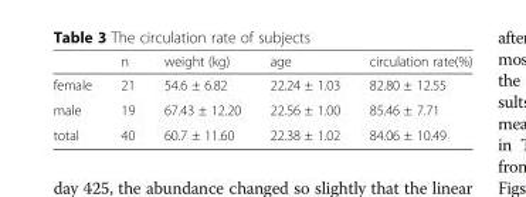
<table><thead><tr><td></td><td>n</td><td>weight (kg)</td><td>age</td><td>circulation rate(%)</td></tr></thead><tbody><tr><td>female</td><td>21</td><td>54.6 ± 6.82</td><td>22.24 ± 1.03</td><td>82.80 ± 12.55</td></tr><tr><td>male</td><td>19</td><td>67.43 ± 12.20</td><td>22.56 ± 1.00</td><td>85.46 ± 7.71</td></tr><tr><td>total</td><td>40</td><td>60.7 ± 11.60</td><td>22.38 ± 1.02</td><td>84.06 ± 10.49</td></tr></tbody></table>